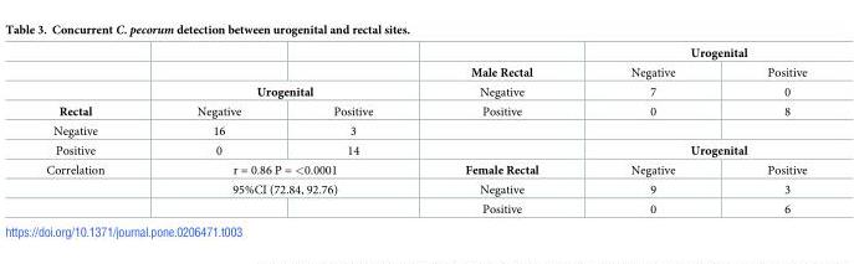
<table><thead><tr><td rowspan="2"></td><td rowspan="2"></td><td rowspan="2"></td><td rowspan="2">Male Rectal</td><td colspan="2">Urogenital</td></tr><tr><td>Negative</td><td>Positive</td></tr></thead><tbody><tr><td></td><td colspan="2">Urogenital</td><td>Negative</td><td>7</td><td>0</td></tr><tr><td>Rectal</td><td>Negative</td><td>Positive</td><td>Positive</td><td>0</td><td>8</td></tr><tr><td>Negative</td><td>16</td><td>3</td><td></td><td></td><td></td></tr><tr><td>Positive</td><td>0</td><td>14</td><td></td><td colspan="2">Urogenital</td></tr><tr><td rowspan="3">Correlation</td><td colspan="2">r = 0.86 P = &lt;0.0001</td><td>Female Rectal</td><td>Negative</td><td>Positive</td></tr><tr><td colspan="2">95%CI (72.84, 92.76)</td><td>Negative</td><td>9</td><td>3</td></tr><tr><td></td><td></td><td>Positive</td><td>0</td><td>6</td></tr></tbody></table>